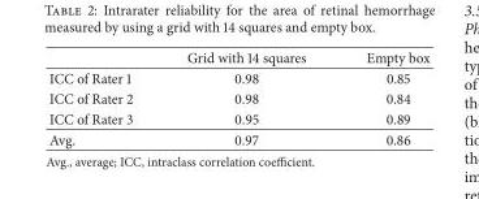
<table><thead><tr><td></td><td>Grid with 14 squares</td><td>Empty box</td></tr></thead><tbody><tr><td>ICC of Rater 1</td><td>0.98</td><td>0.85</td></tr><tr><td>ICC of Rater 2</td><td>0.98</td><td>0.84</td></tr><tr><td>ICC of Rater 3</td><td>0.95</td><td>0.89</td></tr><tr><td>Avg.</td><td>0.97</td><td>0.86</td></tr></tbody></table>